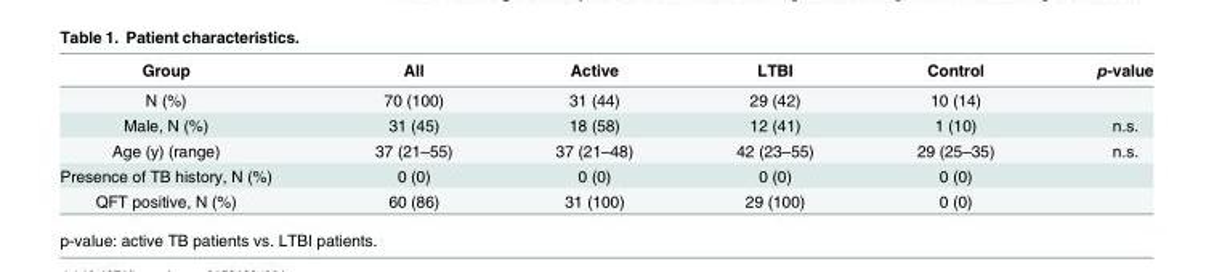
<table><thead><tr><td>Group</td><td>All</td><td>Active</td><td>LTBI</td><td>Control</td><td>p-value</td></tr></thead><tbody><tr><td>N (%)</td><td>70 (100)</td><td>31 (44)</td><td>29 (42)</td><td>10 (14)</td><td></td></tr><tr><td>Male, N (%)</td><td>31 (45)</td><td>18 (58)</td><td>12 (41)</td><td>1 (10)</td><td>n.s.</td></tr><tr><td>Age (y) (range)</td><td>37 (21–55)</td><td>37 (21–48)</td><td>42 (23–55)</td><td>29 (25–35)</td><td>n.s.</td></tr><tr><td>Presence of TB history, N (%)</td><td>0 (0)</td><td>0 (0)</td><td>0 (0)</td><td>0 (0)</td><td></td></tr><tr><td>QFT positive, N (%)</td><td>60 (86)</td><td>31 (100)</td><td>29 (100)</td><td>0 (0)</td><td></td></tr></tbody></table>